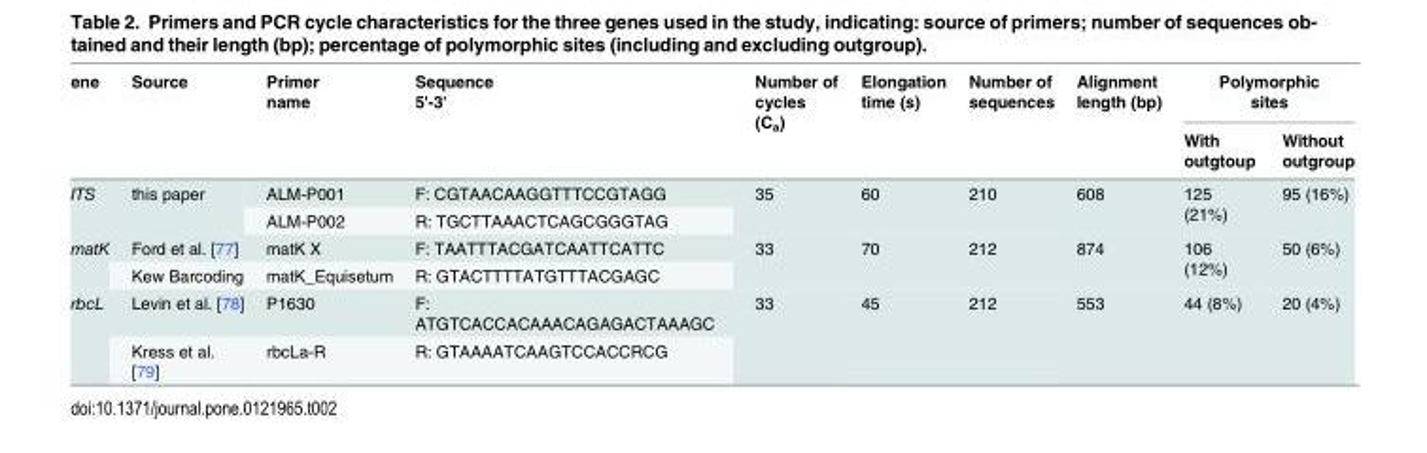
<table><thead><tr><td rowspan="2">ene</td><td rowspan="2">Source</td><td rowspan="2">Primer name</td><td rowspan="2">Sequence 5&#x27;-3&#x27;</td><td rowspan="2">Number of cycles (C<sub>a</sub>)</td><td rowspan="2">Elongation time (s)</td><td rowspan="2">Number of sequences</td><td rowspan="2">Alignment length (bp)</td><td colspan="2">Polymorphic sites</td></tr><tr><td>With outgtoup</td><td>Without outgroup</td></tr></thead><tbody><tr><td rowspan="2">ITS</td><td rowspan="2">this paper</td><td>ALM-P001</td><td>F: CGTAACAAGGTTTCCGTAGG</td><td rowspan="2">35</td><td rowspan="2">60</td><td rowspan="2">210</td><td rowspan="2">608</td><td rowspan="2">125 (21%)</td><td rowspan="2">95 (16%)</td></tr><tr><td>ALM-P002</td><td>R: TGCTTAAACTCAGCGGGTAG</td></tr><tr><td rowspan="2">matK</td><td>Ford et al. [77]</td><td>matK X</td><td>F: TAATTTACGATCAATTCATTC</td><td rowspan="2">33</td><td rowspan="2">70</td><td rowspan="2">212</td><td rowspan="2">874</td><td rowspan="2">106 (12%)</td><td rowspan="2">50 (6%)</td></tr><tr><td>Kew Barcoding</td><td>matK_Equisetum</td><td>R: GTACTTTTATGTTTACGAGC</td></tr><tr><td rowspan="2">rbcL</td><td>Levin et al. [78]</td><td>P1630</td><td>F: ATGTCACCACAAACAGAGACTAAAGC</td><td rowspan="2">33</td><td rowspan="2">45</td><td rowspan="2">212</td><td rowspan="2">553</td><td rowspan="2">44 (8%)</td><td rowspan="2">20 (4%)</td></tr><tr><td>Kress et al. [79]</td><td>rbcLa-R</td><td>R: GTAAAATCAAGTCCACCRCG</td></tr></tbody></table>